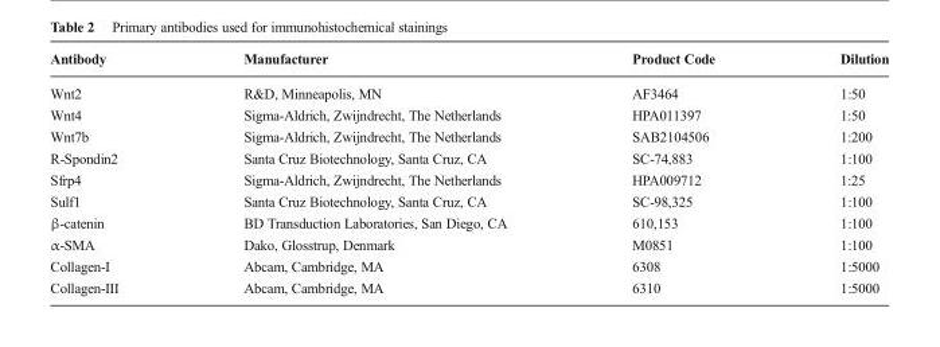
<table><thead><tr><td>Antibody</td><td>Manufacturer</td><td>Product Code</td><td>Dilution</td></tr></thead><tbody><tr><td>Wnt2</td><td>R&amp;D, Minneapolis, MN</td><td>AF3464</td><td>1:50</td></tr><tr><td>Wnt4</td><td>Sigma-Aldrich, Zwijndrecht, The Netherlands</td><td>HPA011397</td><td>1:50</td></tr><tr><td>Wnt7b</td><td>Sigma-Aldrich, Zwijndrecht, The Netherlands</td><td>SAB2104506</td><td>1:200</td></tr><tr><td>R-Spondin2</td><td>Santa Cruz Biotechnology, Santa Cruz, CA</td><td>SC-74,883</td><td>1:100</td></tr><tr><td>Sfrp4</td><td>Sigma-Aldrich, Zwijndrecht, The Netherlands</td><td>HPA009712</td><td>1:25</td></tr><tr><td>Sulf1</td><td>Santa Cruz Biotechnology, Santa Cruz, CA</td><td>SC-98,325</td><td>1:100</td></tr><tr><td>β-catenin</td><td>BD Transduction Laboratories, San Diego, CA</td><td>610,153</td><td>1:100</td></tr><tr><td>α-SMA</td><td>Dako, Glosstrup, Denmark</td><td>M0851</td><td>1:100</td></tr><tr><td>Collagen-I</td><td>Abcam, Cambridge, MA</td><td>6308</td><td>1:5000</td></tr><tr><td>Collagen-III</td><td>Abcam, Cambridge, MA</td><td>6310</td><td>1:5000</td></tr></tbody></table>